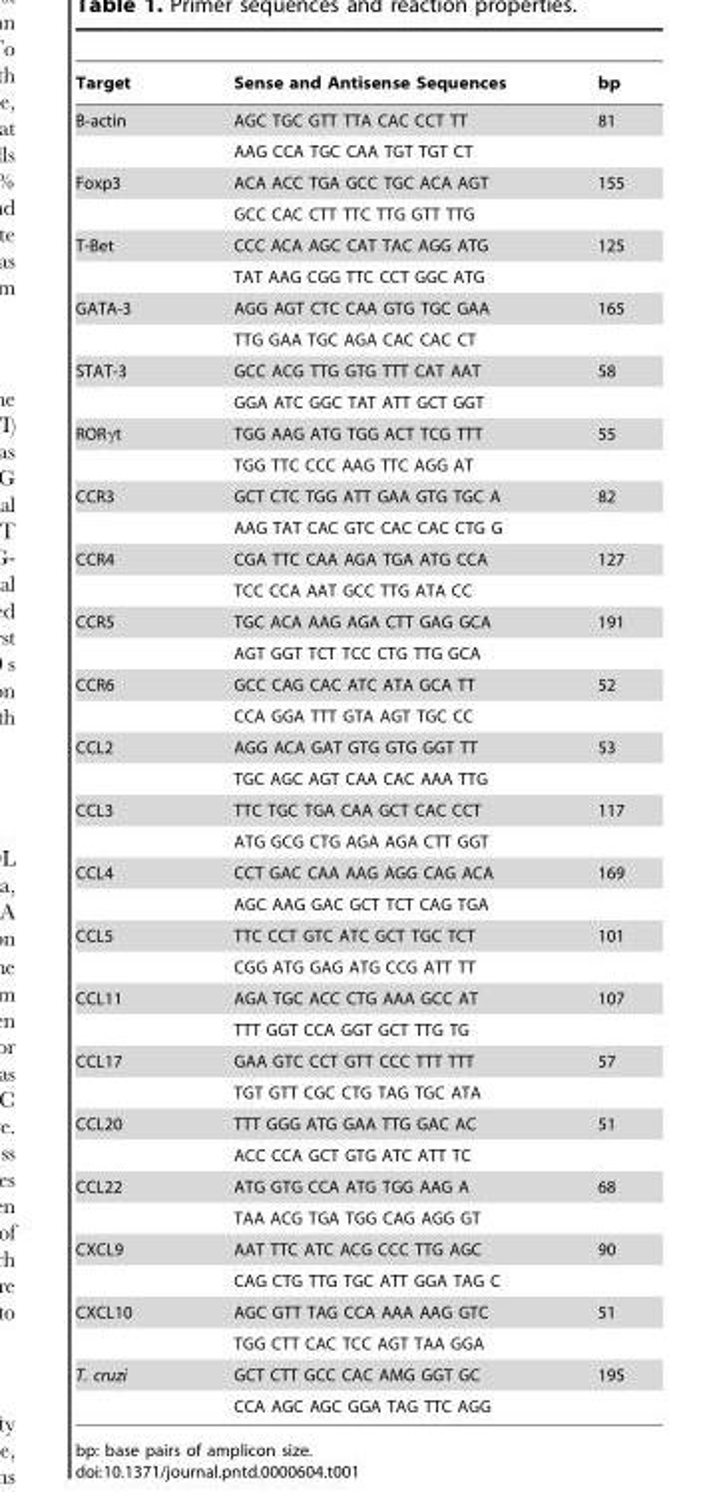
<table><thead><tr><td>Target</td><td>Sense and Antisense Sequences</td><td>bp</td></tr></thead><tbody><tr><td rowspan="2">B-actin</td><td>AGC TGC GTT TTA CAC CCT TT</td><td>81</td></tr><tr><td>AAG CCA TGC CAA TGT TGT CT</td><td></td></tr><tr><td rowspan="2">Foxp3</td><td>ACA ACC TGA GCC TGC ACA AGT</td><td>155</td></tr><tr><td>GCC CAC CTT TTC TTG GTT TTG</td><td></td></tr><tr><td rowspan="2">T-Bet</td><td>CCC ACA AGC CAT TAC AGG ATG</td><td>125</td></tr><tr><td>TAT AAG CGG TTC CCT GGC ATG</td><td></td></tr><tr><td rowspan="2">GATA-3</td><td>AGG AGT CTC CAA GTG TGC GAA</td><td>165</td></tr><tr><td>TTG GAA TGC AGA CAC CAC CT</td><td></td></tr><tr><td rowspan="2">STAT-3</td><td>GCC ACG TTG GTG TTT CAT AAT</td><td>58</td></tr><tr><td>GGA ATC GGC TAT ATT GCT GGT</td><td></td></tr><tr><td rowspan="2">RORγt</td><td>TGG AAG ATG TGG ACT TCG TTT</td><td>55</td></tr><tr><td>TGG TTC CCC AAG TTC AGG AT</td><td></td></tr><tr><td rowspan="2">CCR3</td><td>GCT CTC TGG ATT GAA GTG TGC A</td><td>82</td></tr><tr><td>AAG TAT CAC GTC CAC CAC CTG G</td><td></td></tr><tr><td rowspan="2">CCR4</td><td>CGA TTC CAA AGA TGA ATG CCA</td><td>127</td></tr><tr><td>TCC CCA AAT GCC TTG ATA CC</td><td></td></tr><tr><td rowspan="2">CCR5</td><td>TGC ACA AAG AGA CTT GAG GCA</td><td>191</td></tr><tr><td>AGT GGT TCT TCC CTG TTG GCA</td><td></td></tr><tr><td rowspan="2">CCR6</td><td>GCC CAG CAC ATC ATA GCA TT</td><td>52</td></tr><tr><td>CCA GGA TTT GTA AGT TGC CC</td><td></td></tr><tr><td rowspan="2">CCL2</td><td>AGG ACA GAT GTG GTG GGT TT</td><td>53</td></tr><tr><td>TGC AGC AGT CAA CAC AAA TTG</td><td></td></tr><tr><td rowspan="2">CCL3</td><td>TTC TGC TGA CAA GCT CAC CCT</td><td>117</td></tr><tr><td>ATG GCG CTG AGA AGA CTT GGT</td><td></td></tr><tr><td rowspan="2">CCL4</td><td>CCT GAC CAA AAG AGG CAG ACA</td><td>169</td></tr><tr><td>AGC AAG GAC GCT TCT CAG TGA</td><td></td></tr><tr><td rowspan="2">CCL5</td><td>TTC CCT GTC ATC GCT TGC TCT</td><td>101</td></tr><tr><td>CGG ATG GAG ATG CCG ATT TT</td><td></td></tr><tr><td rowspan="2">CCL11</td><td>AGA TGC ACC CTG AAA GCC AT</td><td>107</td></tr><tr><td>TTT GGT CCA GGT GCT TTG TG</td><td></td></tr><tr><td rowspan="2">CCL17</td><td>GAA GTC CCT GTT CCC TTT TTT</td><td>57</td></tr><tr><td>TGT GTT CGC CTG TAG TGC ATA</td><td></td></tr><tr><td rowspan="2">CCL20</td><td>TTT GGG ATG GAA TTG GAC AC</td><td>51</td></tr><tr><td>ACC CCA GCT GTG ATC ATT TC</td><td></td></tr><tr><td rowspan="2">CCL22</td><td>ATG GTG CCA ATG TGG AAG A</td><td>68</td></tr><tr><td>TAA ACG TGA TGG CAG AGG GT</td><td></td></tr><tr><td rowspan="2">CXCL9</td><td>AAT TTC ATC ACG CCC TTG AGC</td><td>90</td></tr><tr><td>CAG CTG TTG TGC ATT GGA TAG C</td><td></td></tr><tr><td rowspan="2">CXCL10</td><td>AGC GTT TAG CCA AAA AAG GTC</td><td>51</td></tr><tr><td>TGG CTT CAC TCC AGT TAA GGA</td><td></td></tr><tr><td rowspan="2">T. cruzi</td><td>GCT CTT GCC CAC AMG GGT GC</td><td>195</td></tr><tr><td>CCA AGC AGC GGA TAG TTC AGG</td><td></td></tr></tbody></table>